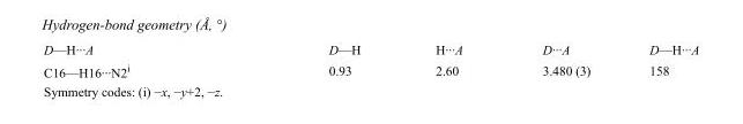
<table><tbody><tr><td>D—H···A</td><td>D—H</td><td>H···A</td><td>D···A</td><td>D—H···A</td></tr><tr><td>C16—H16···N2<sup>i</sup></td><td>0.93</td><td>2.60</td><td>3.480 (3)</td><td>158</td></tr></tbody></table>